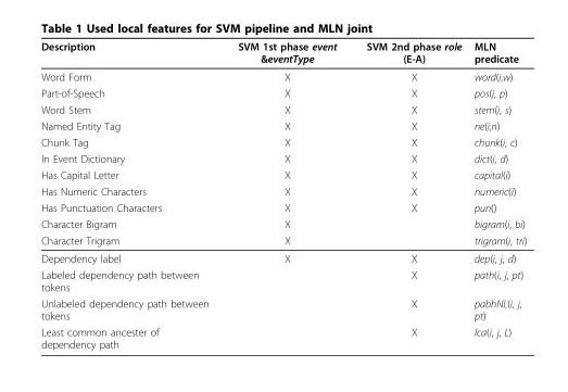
<table><thead><tr><td>Description</td><td>SVM 1st phase event &amp;eventType</td><td>SVM 2nd phase role (E-A)</td><td>MLN predicate</td></tr></thead><tbody><tr><td>Word Form</td><td>X</td><td>X</td><td>word(i,w)</td></tr><tr><td>Part-of-Speech</td><td>X</td><td>X</td><td>pos(i, p)</td></tr><tr><td>Word Stem</td><td>X</td><td>X</td><td>stem(i, s)</td></tr><tr><td>Named Entity Tag</td><td>X</td><td>X</td><td>ne(i,n)</td></tr><tr><td>Chunk Tag</td><td>X</td><td>X</td><td>chunk(i, c)</td></tr><tr><td>In Event Dictionary</td><td>X</td><td>X</td><td>dict(i, d)</td></tr><tr><td>Has Capital Letter</td><td>X</td><td>X</td><td>capital(i)</td></tr><tr><td>Has Numeric Characters</td><td>X</td><td>X</td><td>numeric(i)</td></tr><tr><td>Has Punctuation Characters</td><td>X</td><td>X</td><td>pun()</td></tr><tr><td>Character Bigram</td><td>X</td><td></td><td>bigram(i, bi)</td></tr><tr><td>Character Trigram</td><td>X</td><td></td><td>trigram(i, tri)</td></tr><tr><td>Dependency label</td><td>X</td><td>X</td><td>dep(i, j, d)</td></tr><tr><td>Labeled dependency path between tokens</td><td></td><td>X</td><td>path(i, j, pt)</td></tr><tr><td>Unlabeled dependency path between tokens</td><td></td><td>X</td><td>pabhNL(i, j, pt)</td></tr><tr><td>Least common ancester of dependency path</td><td></td><td>X</td><td>lca(i, j, L)</td></tr></tbody></table>